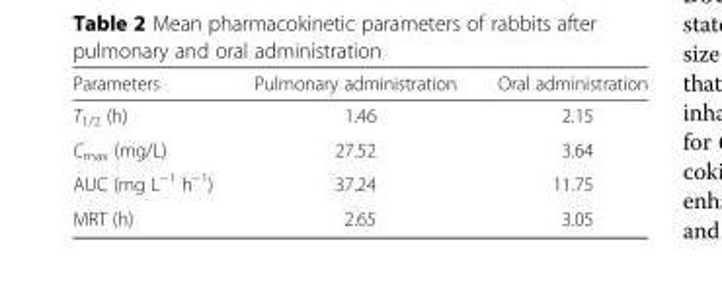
<table><thead><tr><td>Parameters</td><td>Pulmonary administration</td><td>Oral administration</td></tr></thead><tbody><tr><td>T<sub>1/2</sub> (h)</td><td>1.46</td><td>2.15</td></tr><tr><td>C<sub>max</sub> (mg/L)</td><td>27.52</td><td>3.64</td></tr><tr><td>AUC (mg L<sup>−1</sup> h<sup>−1</sup>)</td><td>37.24</td><td>11.75</td></tr><tr><td>MRT (h)</td><td>2.65</td><td>3.05</td></tr></tbody></table>